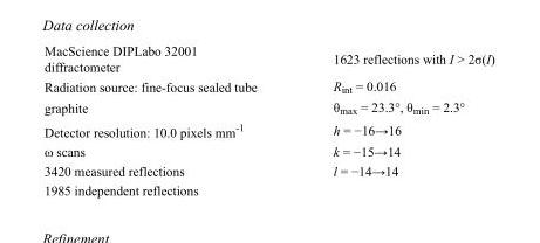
<table><tbody><tr><td>MacScience DIPLabo 32001 diffractometer</td><td>1623 reflections with I &gt; 2σ(I)</td></tr><tr><td>Radiation source: fine-focus sealed tube</td><td>R<sub>int</sub> = 0.016</td></tr><tr><td>graphite</td><td>θ<sub>max</sub> = 23.3°, θ<sub>min</sub> = 2.3°</td></tr><tr><td>Detector resolution: 10.0 pixels mm<sup>-1</sup></td><td>h = −16→16</td></tr><tr><td>ω scans</td><td>k = −15→14</td></tr><tr><td>3420 measured reflections</td><td>l = −14→14</td></tr><tr><td>1985 independent reflections</td><td></td></tr></tbody></table>